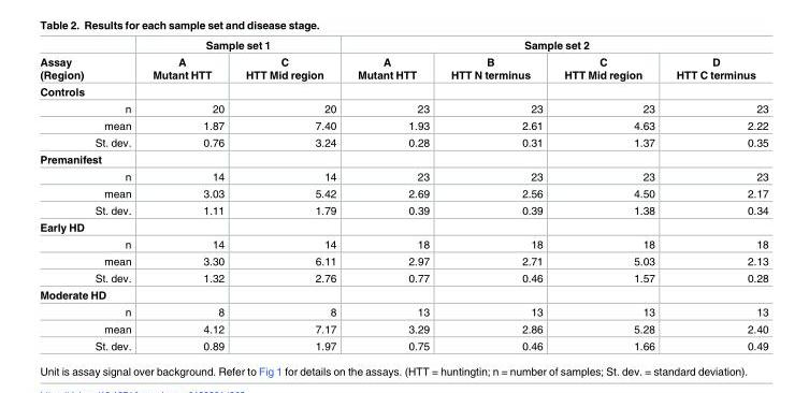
<table><thead><tr><td rowspan="2">Assay (Region)</td><td colspan="2">Sample set 1</td><td colspan="4">Sample set 2</td></tr><tr><td>A Mutant HTT</td><td>C HTT Mid region</td><td>A Mutant HTT</td><td>B HTT N terminus</td><td>C HTT Mid region</td><td>D HTT C terminus</td></tr></thead><tbody><tr><td colspan="7">Controls</td></tr><tr><td>n</td><td>20</td><td>20</td><td>23</td><td>23</td><td>23</td><td>23</td></tr><tr><td>mean</td><td>1.87</td><td>7.40</td><td>1.93</td><td>2.61</td><td>4.63</td><td>2.22</td></tr><tr><td>St. dev.</td><td>0.76</td><td>3.24</td><td>0.28</td><td>0.31</td><td>1.37</td><td>0.35</td></tr><tr><td colspan="7">Premanifest</td></tr><tr><td>n</td><td>14</td><td>14</td><td>23</td><td>23</td><td>23</td><td>23</td></tr><tr><td>mean</td><td>3.03</td><td>5.42</td><td>2.69</td><td>2.56</td><td>4.50</td><td>2.17</td></tr><tr><td>St. dev.</td><td>1.11</td><td>1.79</td><td>0.39</td><td>0.39</td><td>1.38</td><td>0.34</td></tr><tr><td colspan="7">Early HD</td></tr><tr><td>n</td><td>14</td><td>14</td><td>18</td><td>18</td><td>18</td><td>18</td></tr><tr><td>mean</td><td>3.30</td><td>6.11</td><td>2.97</td><td>2.71</td><td>5.03</td><td>2.13</td></tr><tr><td>St. dev.</td><td>1.32</td><td>2.76</td><td>0.77</td><td>0.46</td><td>1.57</td><td>0.28</td></tr><tr><td colspan="7">Moderate HD</td></tr><tr><td>n</td><td>8</td><td>8</td><td>13</td><td>13</td><td>13</td><td>13</td></tr><tr><td>mean</td><td>4.12</td><td>7.17</td><td>3.29</td><td>2.86</td><td>5.28</td><td>2.40</td></tr><tr><td>St. dev.</td><td>0.89</td><td>1.97</td><td>0.75</td><td>0.46</td><td>1.66</td><td>0.49</td></tr></tbody></table>